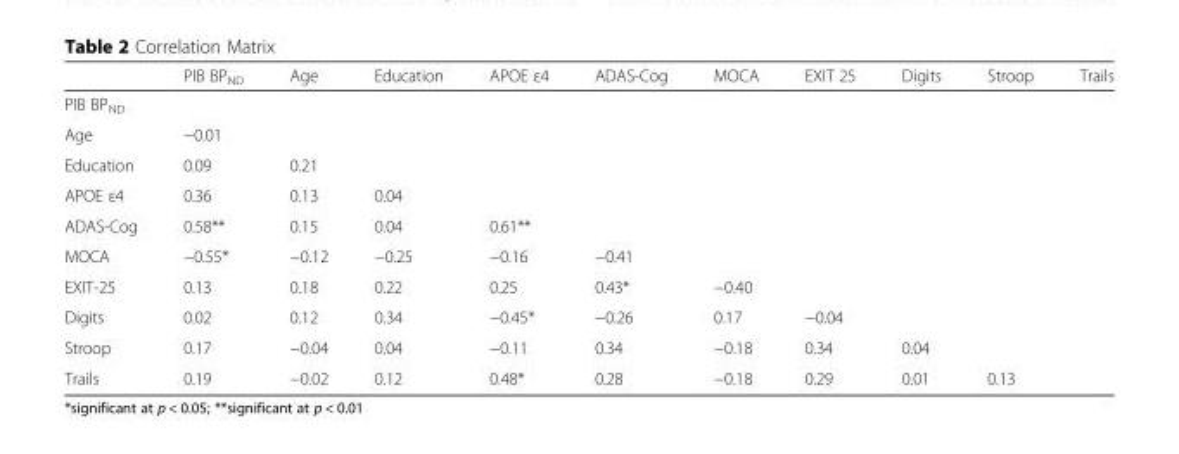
<table><thead><tr><td></td><td>PIB BP<sub>ND</sub></td><td>Age</td><td>Education</td><td>APOE ε4</td><td>ADAS-Cog</td><td>MOCA</td><td>EXIT 25</td><td>Digits</td><td>Stroop</td><td>Trails</td></tr></thead><tbody><tr><td colspan="11">PIB BP<sub>ND</sub></td></tr><tr><td>Age</td><td>−0.01</td><td></td><td></td><td></td><td></td><td></td><td></td><td></td><td></td><td></td></tr><tr><td>Education</td><td>0.09</td><td>0.21</td><td></td><td></td><td></td><td></td><td></td><td></td><td></td><td></td></tr><tr><td>APOE ε4</td><td>0.36</td><td>0.13</td><td>0.04</td><td></td><td></td><td></td><td></td><td></td><td></td><td></td></tr><tr><td>ADAS-Cog</td><td>0.58**</td><td>0.15</td><td>0.04</td><td>0.61**</td><td></td><td></td><td></td><td></td><td></td><td></td></tr><tr><td>MOCA</td><td>−0.55*</td><td>−0.12</td><td>−0.25</td><td>−0.16</td><td>−0.41</td><td></td><td></td><td></td><td></td><td></td></tr><tr><td>EXIT-25</td><td>0.13</td><td>0.18</td><td>0.22</td><td>0.25</td><td>0.43*</td><td>−0.40</td><td></td><td></td><td></td><td></td></tr><tr><td>Digits</td><td>0.02</td><td>0.12</td><td>0.34</td><td>−0.45*</td><td>−0.26</td><td>0.17</td><td>−0.04</td><td></td><td></td><td></td></tr><tr><td>Stroop</td><td>0.17</td><td>−0.04</td><td>0.04</td><td>−0.11</td><td>0.34</td><td>−0.18</td><td>0.34</td><td>0.04</td><td></td><td></td></tr><tr><td>Trails</td><td>0.19</td><td>−0.02</td><td>0.12</td><td>0.48*</td><td>0.28</td><td>−0.18</td><td>0.29</td><td>0.01</td><td>0.13</td><td></td></tr></tbody></table>